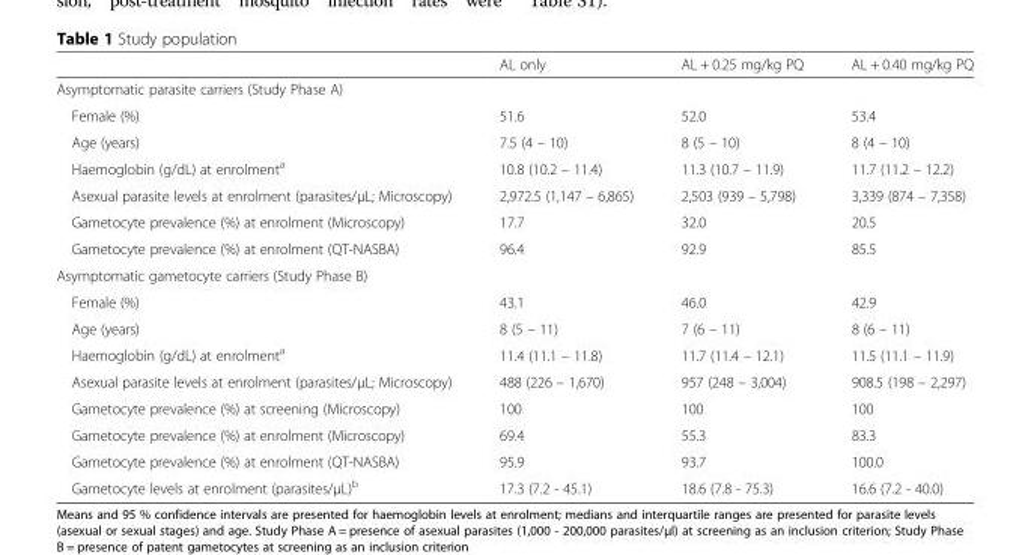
<table><thead><tr><td></td><td>AL only</td><td>AL + 0.25 mg/kg PQ</td><td>AL + 0.40 mg/kg PQ</td></tr></thead><tbody><tr><td colspan="4">Asymptomatic parasite carriers (Study Phase A)</td></tr><tr><td>Female (%)</td><td>51.6</td><td>52.0</td><td>53.4</td></tr><tr><td>Age (years)</td><td>7.5 (4 – 10)</td><td>8 (5 – 10)</td><td>8 (4 – 10)</td></tr><tr><td>Haemoglobin (g/dL) at enrolment<sup>a</sup></td><td>10.8 (10.2 – 11.4)</td><td>11.3 (10.7 – 11.9)</td><td>11.7 (11.2 – 12.2)</td></tr><tr><td>Asexual parasite levels at enrolment (parasites/μL; Microscopy)</td><td>2,972.5 (1,147 – 6,865)</td><td>2,503 (939 – 5,798)</td><td>3,339 (874 – 7,358)</td></tr><tr><td>Gametocyte prevalence (%) at enrolment (Microscopy)</td><td>17.7</td><td>32.0</td><td>20.5</td></tr><tr><td>Gametocyte prevalence (%) at enrolment (QT-NASBA)</td><td>96.4</td><td>92.9</td><td>85.5</td></tr><tr><td colspan="4">Asymptomatic gametocyte carriers (Study Phase B)</td></tr><tr><td>Female (%)</td><td>43.1</td><td>46.0</td><td>42.9</td></tr><tr><td>Age (years)</td><td>8 (5 – 11)</td><td>7 (6 – 11)</td><td>8 (6 – 11)</td></tr><tr><td>Haemoglobin (g/dL) at enrolment<sup>a</sup></td><td>11.4 (11.1 – 11.8)</td><td>11.7 (11.4 – 12.1)</td><td>11.5 (11.1 – 11.9)</td></tr><tr><td>Asexual parasite levels at enrolment (parasites/μL; Microscopy)</td><td>488 (226 – 1,670)</td><td>957 (248 – 3,004)</td><td>908.5 (198 – 2,297)</td></tr><tr><td>Gametocyte prevalence (%) at screening (Microscopy)</td><td>100</td><td>100</td><td>100</td></tr><tr><td>Gametocyte prevalence (%) at enrolment (Microscopy)</td><td>69.4</td><td>55.3</td><td>83.3</td></tr><tr><td>Gametocyte prevalence (%) at enrolment (QT-NASBA)</td><td>95.9</td><td>93.7</td><td>100.0</td></tr><tr><td>Gametocyte levels at enrolment (parasites/μL)<sup>b</sup></td><td>17.3 (7.2 - 45.1)</td><td>18.6 (7.8 - 75.3)</td><td>16.6 (7.2 - 40.0)</td></tr></tbody></table>